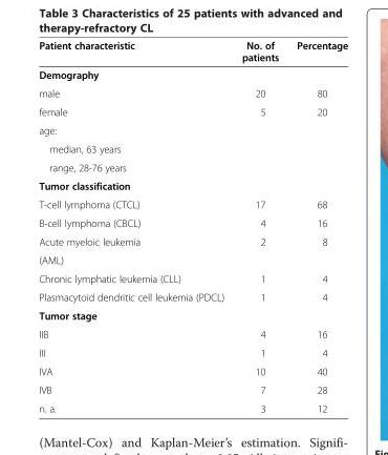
<table><thead><tr><td>Patient characteristic</td><td>No. of patients</td><td>Percentage</td></tr></thead><tbody><tr><td colspan="3">Demography</td></tr><tr><td>male</td><td>20</td><td>80</td></tr><tr><td>female</td><td>5</td><td>20</td></tr><tr><td colspan="3">age:</td></tr><tr><td colspan="3">median, 63 years</td></tr><tr><td colspan="3">range, 28-76 years</td></tr><tr><td colspan="3">Tumor classification</td></tr><tr><td>T-cell lymphoma (CTCL)</td><td>17</td><td>68</td></tr><tr><td>B-cell lymphoma (CBCL)</td><td>4</td><td>16</td></tr><tr><td>Acute myeloic leukemia</td><td>2</td><td>8</td></tr><tr><td colspan="3">(AML)</td></tr><tr><td>Chronic lymphatic leukemia (CLL)</td><td>1</td><td>4</td></tr><tr><td>Plasmacytoid dendritic cell leukemia (PDCL)</td><td>1</td><td>4</td></tr><tr><td colspan="3">Tumor stage</td></tr><tr><td>IIB</td><td>4</td><td>16</td></tr><tr><td>III</td><td>1</td><td>4</td></tr><tr><td>IVA</td><td>10</td><td>40</td></tr><tr><td>IVB</td><td>7</td><td>28</td></tr><tr><td>n. a.</td><td>3</td><td>12</td></tr></tbody></table>